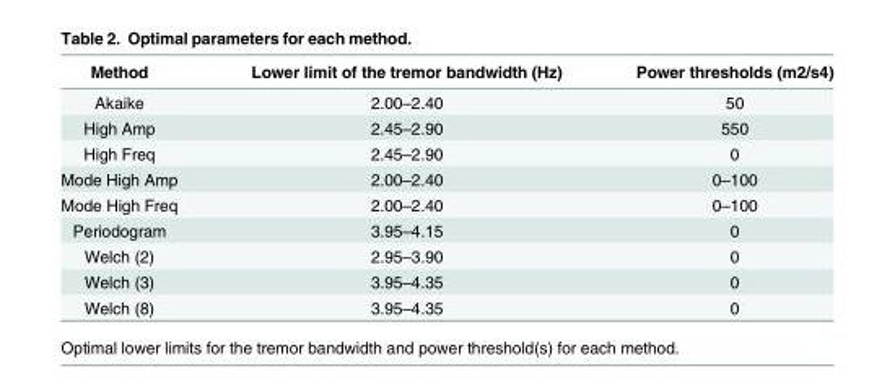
<table><thead><tr><td>Method</td><td>Lower limit of the tremor bandwidth (Hz)</td><td>Power thresholds (m2/s4)</td></tr></thead><tbody><tr><td>Akaike</td><td>2.00–2.40</td><td>50</td></tr><tr><td>High Amp</td><td>2.45–2.90</td><td>550</td></tr><tr><td>High Freq</td><td>2.45–2.90</td><td>0</td></tr><tr><td>Mode High Amp</td><td>2.00–2.40</td><td>0–100</td></tr><tr><td>Mode High Freq</td><td>2.00–2.40</td><td>0–100</td></tr><tr><td>Periodogram</td><td>3.95–4.15</td><td>0</td></tr><tr><td>Welch (2)</td><td>2.95–3.90</td><td>0</td></tr><tr><td>Welch (3)</td><td>3.95–4.35</td><td>0</td></tr><tr><td>Welch (8)</td><td>3.95–4.35</td><td>0</td></tr></tbody></table>